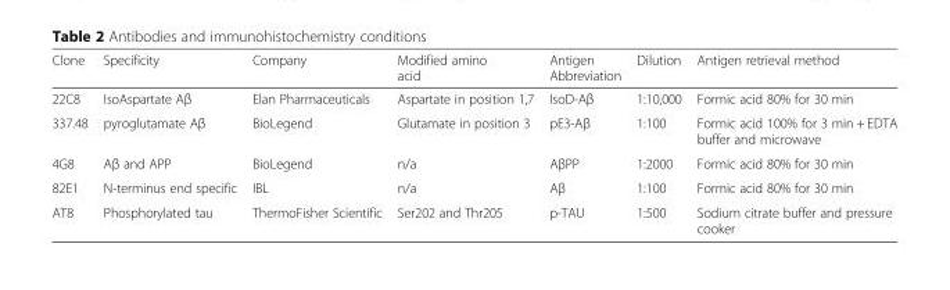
<table><thead><tr><td>Clone</td><td>Specificity</td><td>Company</td><td>Modified amino acid</td><td>Antigen Abbreviation</td><td>Dilution</td><td>Antigen retrieval method</td></tr></thead><tbody><tr><td>22C8</td><td>IsoAspartate Aβ</td><td>Elan Pharmaceuticals</td><td>Aspartate in position 1,7</td><td>IsoD-Aβ</td><td>1:10,000</td><td>Formic acid 80% for 30 min</td></tr><tr><td>337.48</td><td>pyroglutamate Aβ</td><td>BioLegend</td><td>Glutamate in position 3</td><td>pE3-Aβ</td><td>1:100</td><td>Formic acid 100% for 3 min + EDTA buffer and microwave</td></tr><tr><td>4G8</td><td>Aβ and APP</td><td>BioLegend</td><td>n/a</td><td>AβPP</td><td>1:2000</td><td>Formic acid 80% for 30 min</td></tr><tr><td>82E1</td><td>N-terminus end specific</td><td>IBL</td><td>n/a</td><td>Aβ</td><td>1:100</td><td>Formic acid 80% for 30 min</td></tr><tr><td>AT8</td><td>Phosphorylated tau</td><td>ThermoFisher Scientific</td><td>Ser202 and Thr205</td><td>p-TAU</td><td>1:500</td><td>Sodium citrate buffer and pressure cooker</td></tr></tbody></table>